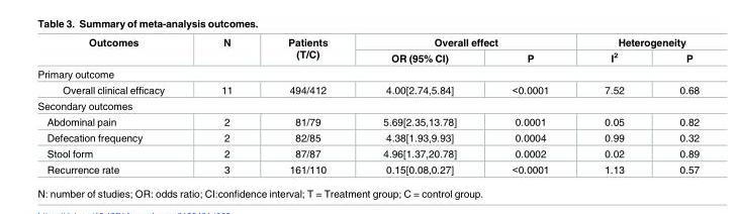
<table><thead><tr><td rowspan="2">Outcomes</td><td rowspan="2">N</td><td rowspan="2">Patients (T/C)</td><td colspan="2">Overall effect</td><td colspan="2">Heterogeneity</td></tr><tr><td>OR (95% CI)</td><td>P</td><td>I<sup>2</sup></td><td>P</td></tr></thead><tbody><tr><td colspan="7">Primary outcome</td></tr><tr><td>Overall clinical efficacy</td><td>11</td><td>494/412</td><td>4.00[2.74,5.84]</td><td>&lt;0.0001</td><td>7.52</td><td>0.68</td></tr><tr><td colspan="7">Secondary outcomes</td></tr><tr><td>Abdominal pain</td><td>2</td><td>81/79</td><td>5.69[2.35,13.78]</td><td>0.0001</td><td>0.05</td><td>0.82</td></tr><tr><td>Defecation frequency</td><td>2</td><td>82/85</td><td>4.38[1.93,9.93]</td><td>0.0004</td><td>0.99</td><td>0.32</td></tr><tr><td>Stool form</td><td>2</td><td>87/87</td><td>4.96[1.37,20.78]</td><td>0.0002</td><td>0.02</td><td>0.89</td></tr><tr><td>Recurrence rate</td><td>3</td><td>161/110</td><td>0.15[0.08,0.27]</td><td>&lt;0.0001</td><td>1.13</td><td>0.57</td></tr></tbody></table>